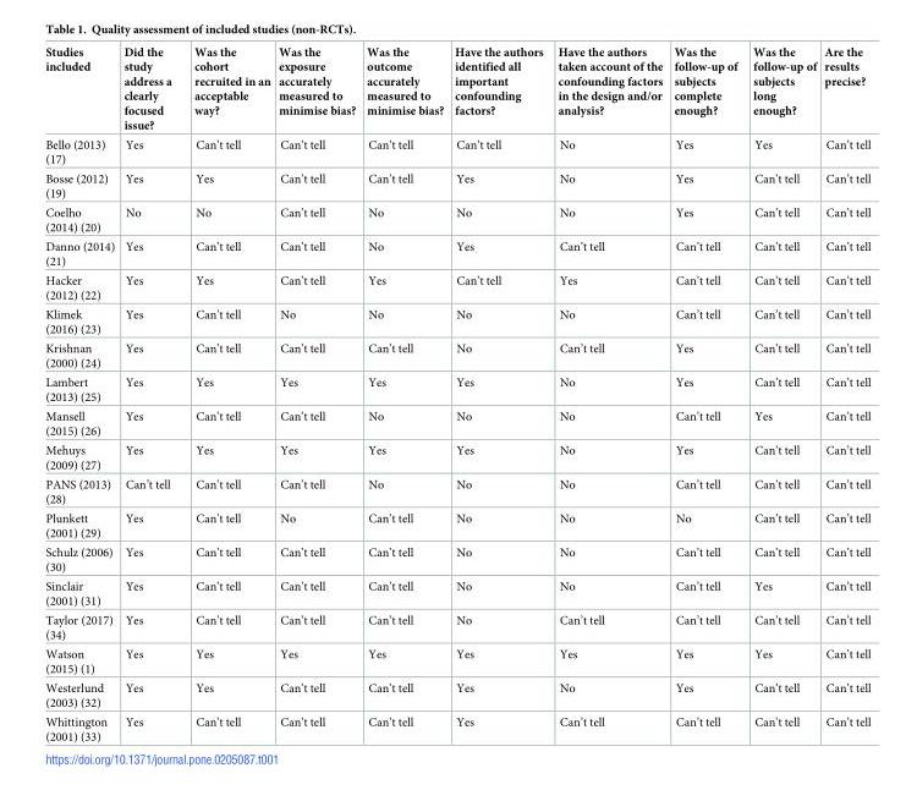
<table><thead><tr><td>Studies included</td><td>Did the study address a clearly focused issue?</td><td>Was the cohort recruited in an acceptable way?</td><td>Was the exposure accurately measured to minimise bias?</td><td>Was the outcome accurately measured to minimise bias?</td><td>Have the authors identified all important confounding factors?</td><td>Have the authors taken account of the confounding factors in the design and/or analysis?</td><td>Was the follow-up of subjects complete enough?</td><td>Was the follow-up of subjects long enough?</td><td>Are the results precise?</td></tr></thead><tbody><tr><td>Bello (2013) (17)</td><td>Yes</td><td>Can’t tell</td><td>Can’t tell</td><td>Can’t tell</td><td>Can’t tell</td><td>No</td><td>Yes</td><td>Yes</td><td>Can’t tell</td></tr><tr><td>Bosse (2012) (19)</td><td>Yes</td><td>Yes</td><td>Can’t tell</td><td>Can’t tell</td><td>Yes</td><td>No</td><td>Yes</td><td>Can’t tell</td><td>Can’t tell</td></tr><tr><td>Coelho (2014) (20)</td><td>No</td><td>No</td><td>Can’t tell</td><td>No</td><td>No</td><td>No</td><td>Yes</td><td>Can’t tell</td><td>Can’t tell</td></tr><tr><td>Danno (2014) (21)</td><td>Yes</td><td>Can’t tell</td><td>Can’t tell</td><td>No</td><td>Yes</td><td>Can’t tell</td><td>Can’t tell</td><td>Can’t tell</td><td>Can’t tell</td></tr><tr><td>Hacker (2012) (22)</td><td>Yes</td><td>Yes</td><td>Can’t tell</td><td>Yes</td><td>Can’t tell</td><td>Yes</td><td>Can’t tell</td><td>Can’t tell</td><td>Can’t tell</td></tr><tr><td>Klimek (2016) (23)</td><td>Yes</td><td>Can’t tell</td><td>No</td><td>No</td><td>No</td><td>No</td><td>Can’t tell</td><td>Can’t tell</td><td>Can’t tell</td></tr><tr><td>Krishnan (2000) (24)</td><td>Yes</td><td>Can’t tell</td><td>Can’t tell</td><td>Can’t tell</td><td>No</td><td>Can’t tell</td><td>Yes</td><td>Can’t tell</td><td>Can’t tell</td></tr><tr><td>Lambert (2013) (25)</td><td>Yes</td><td>Yes</td><td>Yes</td><td>Yes</td><td>Yes</td><td>No</td><td>Yes</td><td>Can’t tell</td><td>Can’t tell</td></tr><tr><td>Mansell (2015) (26)</td><td>Yes</td><td>Can’t tell</td><td>Can’t tell</td><td>No</td><td>No</td><td>No</td><td>Can’t tell</td><td>Yes</td><td>Can’t tell</td></tr><tr><td>Mehuys (2009) (27)</td><td>Yes</td><td>Yes</td><td>Yes</td><td>Yes</td><td>Yes</td><td>No</td><td>Yes</td><td>Can’t tell</td><td>Can’t tell</td></tr><tr><td>PANS (2013) (28)</td><td>Can’t tell</td><td>Can’t tell</td><td>Can’t tell</td><td>No</td><td>No</td><td>No</td><td>Can’t tell</td><td>Can’t tell</td><td>Can’t tell</td></tr><tr><td>Plunkett (2001) (29)</td><td>Yes</td><td>Can’t tell</td><td>No</td><td>Can’t tell</td><td>No</td><td>No</td><td>No</td><td>Can’t tell</td><td>Can’t tell</td></tr><tr><td>Schulz (2006) (30)</td><td>Yes</td><td>Can’t tell</td><td>Can’t tell</td><td>Can’t tell</td><td>No</td><td>No</td><td>Can’t tell</td><td>Can’t tell</td><td>Can’t tell</td></tr><tr><td>Sinclair (2001) (31)</td><td>Yes</td><td>Can’t tell</td><td>Can’t tell</td><td>Can’t tell</td><td>No</td><td>No</td><td>Can’t tell</td><td>Yes</td><td>Can’t tell</td></tr><tr><td>Taylor (2017) (34)</td><td>Yes</td><td>Can’t tell</td><td>Can’t tell</td><td>Can’t tell</td><td>No</td><td>Can’t tell</td><td>Can’t tell</td><td>Can’t tell</td><td>Can’t tell</td></tr><tr><td>Watson (2015) (1)</td><td>Yes</td><td>Yes</td><td>Yes</td><td>Yes</td><td>Yes</td><td>Yes</td><td>Yes</td><td>Yes</td><td>Can’t tell</td></tr><tr><td>Westerlund (2003) (32)</td><td>Yes</td><td>Yes</td><td>Can’t tell</td><td>Can’t tell</td><td>Yes</td><td>No</td><td>Yes</td><td>Can’t tell</td><td>Can’t tell</td></tr><tr><td>Whittington (2001) (33)</td><td>Yes</td><td>Can’t tell</td><td>Can’t tell</td><td>Can’t tell</td><td>Yes</td><td>Can’t tell</td><td>Can’t tell</td><td>Can’t tell</td><td>Can’t tell</td></tr></tbody></table>